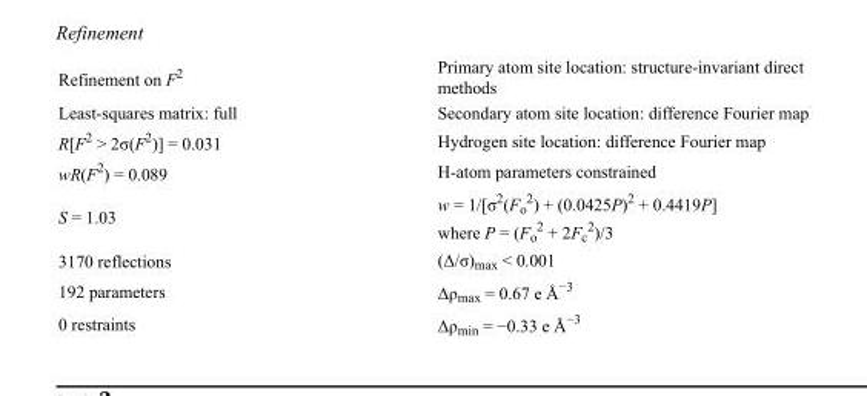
<table><tbody><tr><td>Refinement on F<sup>2</sup></td><td>Primary atom site location: structure-invariant direct methods</td></tr><tr><td>Least-squares matrix: full</td><td>Secondary atom site location: difference Fourier map</td></tr><tr><td>R[F<sup>2</sup> &gt; 2σ(F<sup>2</sup>)] = 0.031</td><td>Hydrogen site location: difference Fourier map</td></tr><tr><td>wR(F<sup>2</sup>) = 0.089</td><td>H-atom parameters constrained</td></tr><tr><td>S = 1.03</td><td>w = 1/[σ<sup>2</sup>(F<sub>o</sub> <sup>2</sup>) + (0.0425P)<sup>2</sup> + 0.4419P] where P = (F<sub>o</sub> <sup>2</sup> + 2F<sub>c</sub> <sup>2</sup>)/3</td></tr><tr><td>3170 reflections</td><td>(Δ/σ)<sub>max</sub> &lt; 0.001</td></tr><tr><td>192 parameters</td><td>Δρ<sub>max</sub> = 0.67 e Å<sup>−3</sup></td></tr><tr><td>0 restraints</td><td>Δρ<sub>min</sub> = −0.33 e Å<sup>−3</sup></td></tr></tbody></table>